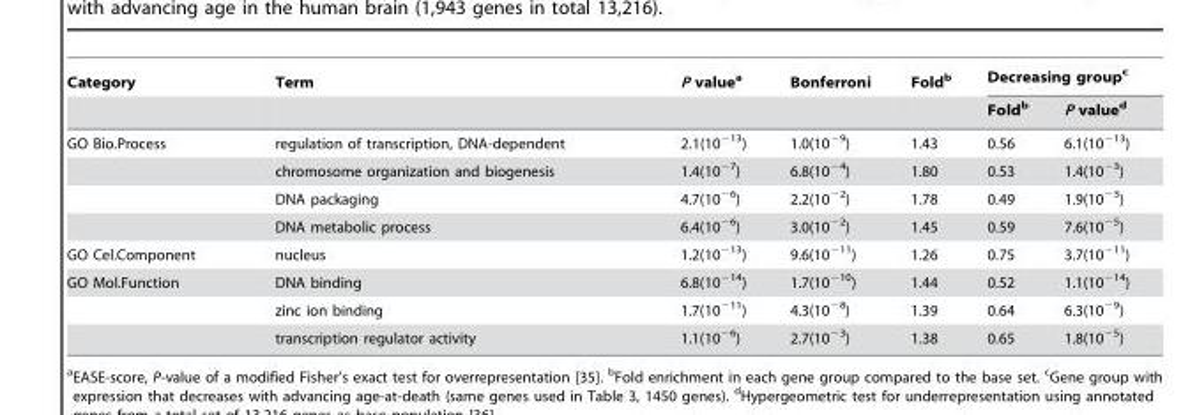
<table><thead><tr><td rowspan="2">Category</td><td rowspan="2">Term</td><td rowspan="2">P value<sup>a</sup></td><td rowspan="2">Bonferroni</td><td rowspan="2">Fold<sup>b</sup></td><td colspan="2">Decreasing group<sup>c</sup></td></tr><tr><td>Fold<sup>b</sup></td><td>P value<sup>d</sup></td></tr></thead><tbody><tr><td rowspan="4">GO Bio.Process</td><td>regulation of transcription, DNA-dependent</td><td>2.1(10<sup>−13</sup>)</td><td>1.0(10<sup>−9</sup>)</td><td>1.43</td><td>0.56</td><td>6.1(10<sup>−13</sup>)</td></tr><tr><td>chromosome organization and biogenesis</td><td>1.4(10<sup>−7</sup>)</td><td>6.8(10<sup>−4</sup>)</td><td>1.80</td><td>0.53</td><td>1.4(10<sup>−3</sup>)</td></tr><tr><td>DNA packaging</td><td>4.7(10<sup>−6</sup>)</td><td>2.2(10<sup>−2</sup>)</td><td>1.78</td><td>0.49</td><td>1.9(10<sup>−3</sup>)</td></tr><tr><td>DNA metabolic process</td><td>6.4(10<sup>−6</sup>)</td><td>3.0(10<sup>−2</sup>)</td><td>1.45</td><td>0.59</td><td>7.6(10<sup>−5</sup>)</td></tr><tr><td>GO Cel.Component</td><td>nucleus</td><td>1.2(10<sup>−13</sup>)</td><td>9.6(10<sup>−11</sup>)</td><td>1.26</td><td>0.75</td><td>3.7(10<sup>−11</sup>)</td></tr><tr><td rowspan="3">GO Mol.Function</td><td>DNA binding</td><td>6.8(10<sup>−14</sup>)</td><td>1.7(10<sup>−10</sup>)</td><td>1.44</td><td>0.52</td><td>1.1(10<sup>−14</sup>)</td></tr><tr><td>zinc ion binding</td><td>1.7(10<sup>−11</sup>)</td><td>4.3(10<sup>−8</sup>)</td><td>1.39</td><td>0.64</td><td>6.3(10<sup>−9</sup>)</td></tr><tr><td>transcription regulator activity</td><td>1.1(10<sup>−6</sup>)</td><td>2.7(10<sup>−3</sup>)</td><td>1.38</td><td>0.65</td><td>1.8(10<sup>−5</sup>)</td></tr></tbody></table>